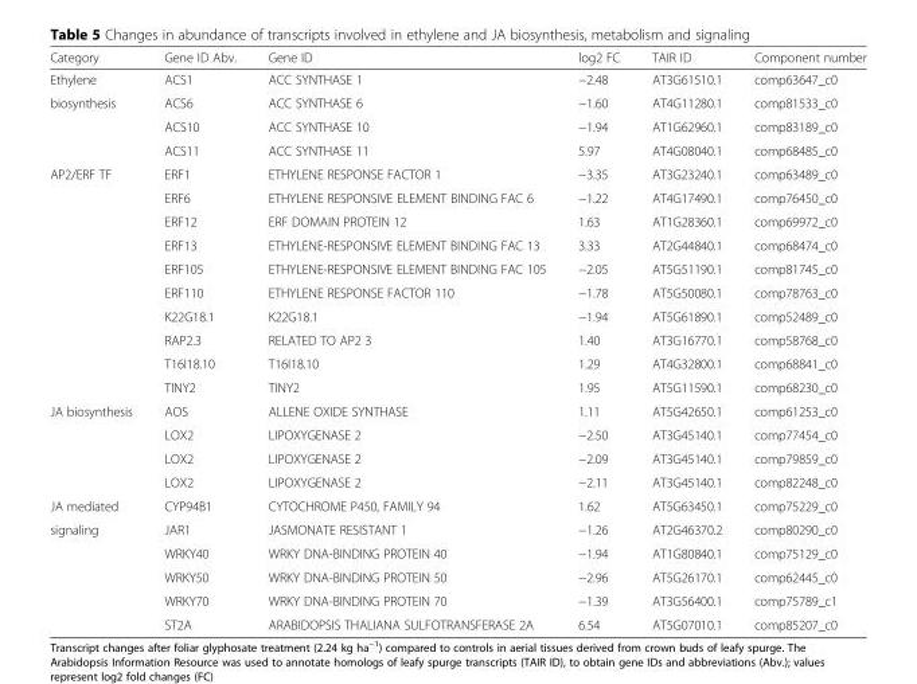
<table><thead><tr><td>Category</td><td>Gene ID Abv.</td><td>Gene ID</td><td>log2 FC</td><td>TAIR ID</td><td>Component number</td></tr></thead><tbody><tr><td>Ethylene</td><td>ACS1</td><td>ACC SYNTHASE 1</td><td>−2.48</td><td>AT3G61510.1</td><td>comp63647_c0</td></tr><tr><td rowspan="3">biosynthesis</td><td>ACS6</td><td>ACC SYNTHASE 6</td><td>−1.60</td><td>AT4G11280.1</td><td>comp81533_c0</td></tr><tr><td>ACS10</td><td>ACC SYNTHASE 10</td><td>−1.94</td><td>AT1G62960.1</td><td>comp83189_c0</td></tr><tr><td>ACS11</td><td>ACC SYNTHASE 11</td><td>5.97</td><td>AT4G08040.1</td><td>comp68485_c0</td></tr><tr><td rowspan="10">AP2/ERF TF</td><td>ERF1</td><td>ETHYLENE RESPONSE FACTOR 1</td><td>−3.35</td><td>AT3G23240.1</td><td>comp63489_c0</td></tr><tr><td>ERF6</td><td>ETHYLENE RESPONSIVE ELEMENT BINDING FAC 6</td><td>−1.22</td><td>AT4G17490.1</td><td>comp76450_c0</td></tr><tr><td>ERF12</td><td>ERF DOMAIN PROTEIN 12</td><td>1.63</td><td>AT1G28360.1</td><td>comp69972_c0</td></tr><tr><td>ERF13</td><td>ETHYLENE-RESPONSIVE ELEMENT BINDING FAC 13</td><td>3.33</td><td>AT2G44840.1</td><td>comp68474_c0</td></tr><tr><td>ERF105</td><td>ETHYLENE-RESPONSIVE ELEMENT BINDING FAC 105</td><td>−2.05</td><td>AT5G51190.1</td><td>comp81745_c0</td></tr><tr><td>ERF110</td><td>ETHYLENE RESPONSE FACTOR 110</td><td>−1.78</td><td>AT5G50080.1</td><td>comp78763_c0</td></tr><tr><td>K22G18.1</td><td>K22G18.1</td><td>−1.94</td><td>AT5G61890.1</td><td>comp52489_c0</td></tr><tr><td>RAP2.3</td><td>RELATED TO AP2 3</td><td>1.40</td><td>AT3G16770.1</td><td>comp58768_c0</td></tr><tr><td>T16I18.10</td><td>T16I18.10</td><td>1.29</td><td>AT4G32800.1</td><td>comp68841_c0</td></tr><tr><td>TINY2</td><td>TINY2</td><td>1.95</td><td>AT5G11590.1</td><td>comp68230_c0</td></tr><tr><td rowspan="4">JA biosynthesis</td><td>AOS</td><td>ALLENE OXIDE SYNTHASE</td><td>1.11</td><td>AT5G42650.1</td><td>comp61253_c0</td></tr><tr><td>LOX2</td><td>LIPOXYGENASE 2</td><td>−2.50</td><td>AT3G45140.1</td><td>comp77454_c0</td></tr><tr><td>LOX2</td><td>LIPOXYGENASE 2</td><td>−2.09</td><td>AT3G45140.1</td><td>comp79859_c0</td></tr><tr><td>LOX2</td><td>LIPOXYGENASE 2</td><td>−2.11</td><td>AT3G45140.1</td><td>comp82248_c0</td></tr><tr><td>JA mediated</td><td>CYP94B1</td><td>CYTOCHROME P450, FAMILY 94</td><td>1.62</td><td>AT5G63450.1</td><td>comp75229_c0</td></tr><tr><td rowspan="5">signaling</td><td>JAR1</td><td>JASMONATE RESISTANT 1</td><td>−1.26</td><td>AT2G46370.2</td><td>comp80290_c0</td></tr><tr><td>WRKY40</td><td>WRKY DNA-BINDING PROTEIN 40</td><td>−1.94</td><td>AT1G80840.1</td><td>comp75129_c0</td></tr><tr><td>WRKY50</td><td>WRKY DNA-BINDING PROTEIN 50</td><td>−2.96</td><td>AT5G26170.1</td><td>comp62445_c0</td></tr><tr><td>WRKY70</td><td>WRKY DNA-BINDING PROTEIN 70</td><td>−1.39</td><td>AT3G56400.1</td><td>comp75789_c1</td></tr><tr><td>ST2A</td><td>ARABIDOPSIS THALIANA SULFOTRANSFERASE 2A</td><td>6.54</td><td>AT5G07010.1</td><td>comp85207_c0</td></tr></tbody></table>